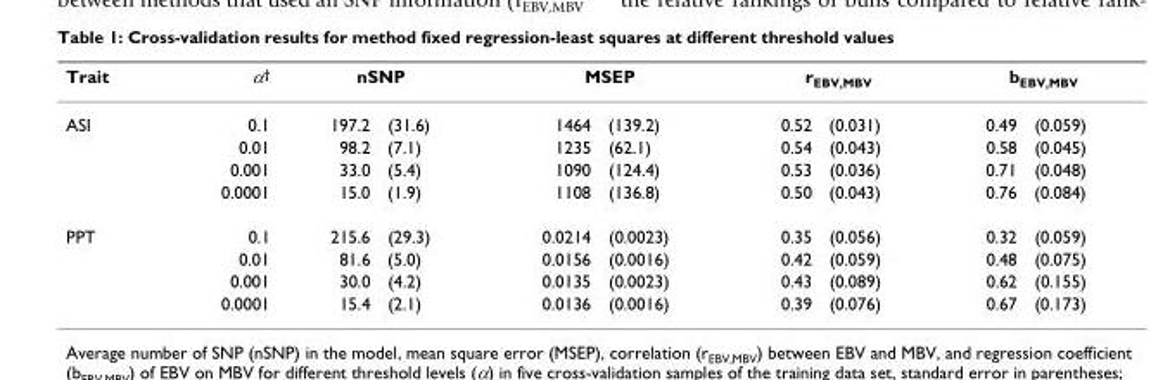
<table><thead><tr><td rowspan="2">Trait ASI</td><td rowspan="2">α<sup>†</sup> 0.1</td><td colspan="2">nSNP</td><td colspan="2">MSEP</td><td colspan="2">r<sub>EBV,MBV</sub></td><td colspan="2">b<sub>EBV,MBV</sub></td></tr><tr><td>197.2</td><td>(31.6)</td><td>1464</td><td>(139.2)</td><td>0.52</td><td>(0.031)</td><td>0.49</td><td>(0.059)</td></tr></thead><tbody><tr><td></td><td>0.01</td><td>98.2</td><td>(7.1)</td><td>1235</td><td>(62.1)</td><td>0.54</td><td>(0.043)</td><td>0.58</td><td>(0.045)</td></tr><tr><td></td><td>0.001</td><td>33.0</td><td>(5.4)</td><td>1090</td><td>(124.4)</td><td>0.53</td><td>(0.036)</td><td>0.71</td><td>(0.048)</td></tr><tr><td></td><td>0.0001</td><td>15.0</td><td>(1.9)</td><td>1108</td><td>(136.8)</td><td>0.50</td><td>(0.043)</td><td>0.76</td><td>(0.084)</td></tr><tr><td rowspan="4">PPT</td><td>0.1</td><td>215.6</td><td>(29.3)</td><td>0.0214</td><td>(0.0023)</td><td>0.35</td><td>(0.056)</td><td>0.32</td><td>(0.059)</td></tr><tr><td>0.01</td><td>81.6</td><td>(5.0)</td><td>0.0156</td><td>(0.0016)</td><td>0.42</td><td>(0.059)</td><td>0.48</td><td>(0.075)</td></tr><tr><td>0.001</td><td>30.0</td><td>(4.2)</td><td>0.0135</td><td>(0.0023)</td><td>0.43</td><td>(0.089)</td><td>0.62</td><td>(0.155)</td></tr><tr><td>0.0001</td><td>15.4</td><td>(2.1)</td><td>0.0136</td><td>(0.0016)</td><td>0.39</td><td>(0.076)</td><td>0.67</td><td>(0.173)</td></tr></tbody></table>